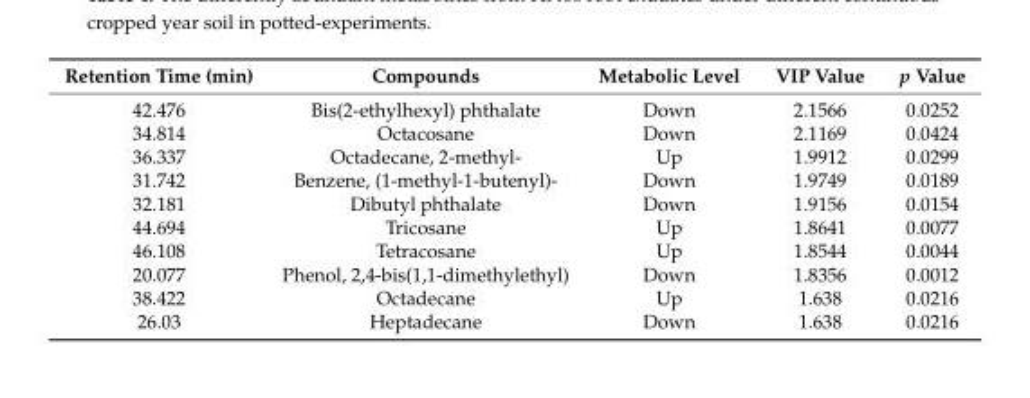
<table><thead><tr><td>Retention Time (min)</td><td>Compounds</td><td>Metabolic Level</td><td>VIP Value</td><td>p Value</td></tr></thead><tbody><tr><td>42.476</td><td>Bis(2-ethylhexyl) phthalate</td><td>Down</td><td>2.1566</td><td>0.0252</td></tr><tr><td>34.814</td><td>Octacosane</td><td>Down</td><td>2.1169</td><td>0.0424</td></tr><tr><td>36.337</td><td>Octadecane, 2-methyl-</td><td>Up</td><td>1.9912</td><td>0.0299</td></tr><tr><td>31.742</td><td>Benzene, (1-methyl-1-butenyl)-</td><td>Down</td><td>1.9749</td><td>0.0189</td></tr><tr><td>32.181</td><td>Dibutyl phthalate</td><td>Down</td><td>1.9156</td><td>0.0154</td></tr><tr><td>44.694</td><td>Tricosane</td><td>Up</td><td>1.8641</td><td>0.0077</td></tr><tr><td>46.108</td><td>Tetracosane</td><td>Up</td><td>1.8544</td><td>0.0044</td></tr><tr><td>20.077</td><td>Phenol, 2,4-bis(1,1-dimethylethyl)</td><td>Down</td><td>1.8356</td><td>0.0012</td></tr><tr><td>38.422</td><td>Octadecane</td><td>Up</td><td>1.638</td><td>0.0216</td></tr><tr><td>26.03</td><td>Heptadecane</td><td>Down</td><td>1.638</td><td>0.0216</td></tr></tbody></table>